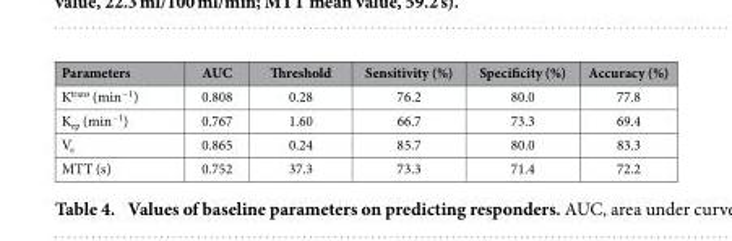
<table><thead><tr><td>Parameters</td><td>AUC</td><td>Threshold</td><td>Sensitivity (%)</td><td>Specificity (%)</td><td>Accuracy (%)</td></tr></thead><tbody><tr><td>K<sup>trans</sup> (min<sup>−1</sup>)</td><td>0.808</td><td>0.28</td><td>76.2</td><td>80.0</td><td>77.8</td></tr><tr><td>K<sub>ep</sub> (min<sup>−1</sup>)</td><td>0.767</td><td>1.60</td><td>66.7</td><td>73.3</td><td>69.4</td></tr><tr><td>V<sub>e</sub></td><td>0.865</td><td>0.24</td><td>85.7</td><td>80.0</td><td>83.3</td></tr><tr><td>MTT (s)</td><td>0.752</td><td>37.3</td><td>73.3</td><td>71.4</td><td>72.2</td></tr></tbody></table>